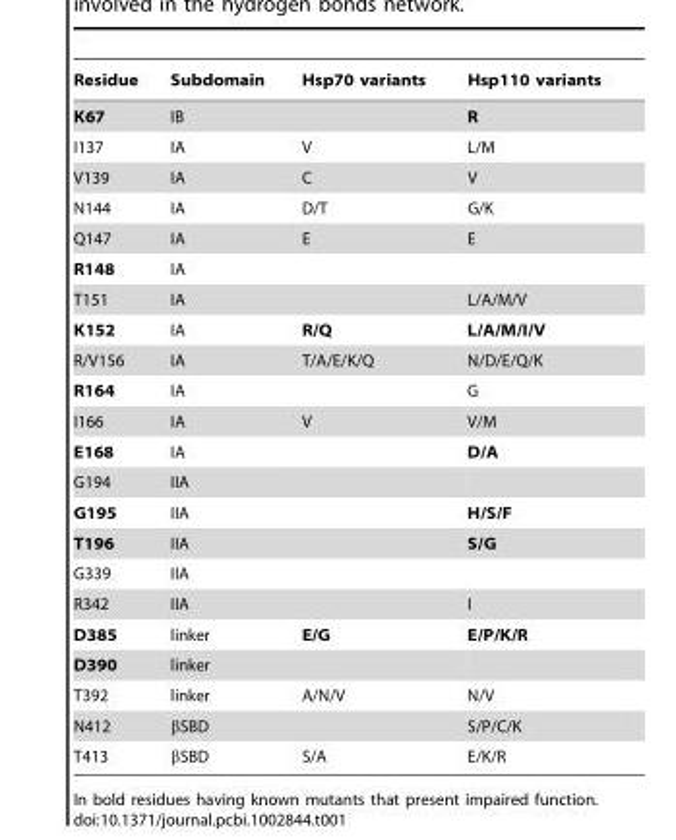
<table><thead><tr><td>Residue</td><td>Subdomain</td><td>Hsp70 variants</td><td>Hsp110 variants</td></tr></thead><tbody><tr><td>K67</td><td>IB</td><td></td><td>R</td></tr><tr><td>I137</td><td>IA</td><td>V</td><td>L/M</td></tr><tr><td>V139</td><td>IA</td><td>C</td><td>V</td></tr><tr><td>N144</td><td>IA</td><td>D/T</td><td>G/K</td></tr><tr><td>Q147</td><td>IA</td><td>E</td><td>E</td></tr><tr><td>R148</td><td>IA</td><td></td><td></td></tr><tr><td>T151</td><td>IA</td><td></td><td>L/A/M/V</td></tr><tr><td>K152</td><td>IA</td><td>R/Q</td><td>L/A/M/I/V</td></tr><tr><td>R/V156</td><td>IA</td><td>T/A/E/K/Q</td><td>N/D/E/Q/K</td></tr><tr><td>R164</td><td>IA</td><td></td><td>G</td></tr><tr><td>I166</td><td>IA</td><td>V</td><td>V/M</td></tr><tr><td>E168</td><td>IA</td><td></td><td>D/A</td></tr><tr><td>G194</td><td>IIA</td><td></td><td></td></tr><tr><td>G195</td><td>IIA</td><td></td><td>H/S/F</td></tr><tr><td>T196</td><td>IIA</td><td></td><td>S/G</td></tr><tr><td>G339</td><td>IIA</td><td></td><td></td></tr><tr><td>R342</td><td>IIA</td><td></td><td>I</td></tr><tr><td>D385</td><td>linker</td><td>E/G</td><td>E/P/K/R</td></tr><tr><td>D390</td><td>linker</td><td></td><td></td></tr><tr><td>T392</td><td>linker</td><td>A/N/V</td><td>N/V</td></tr><tr><td>N412</td><td>βSBD</td><td></td><td>S/P/C/K</td></tr><tr><td>T413</td><td>βSBD</td><td>S/A</td><td>E/K/R</td></tr></tbody></table>